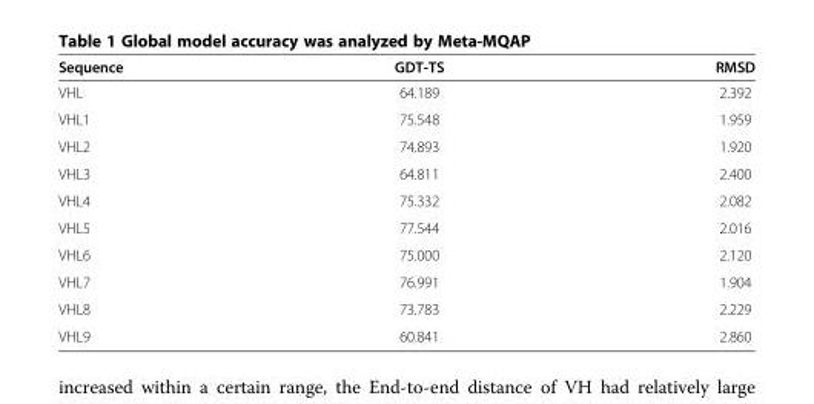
<table><thead><tr><td>Sequence</td><td>GDT-TS</td><td>RMSD</td></tr></thead><tbody><tr><td>VHL</td><td>64.189</td><td>2.392</td></tr><tr><td>VHL1</td><td>75.548</td><td>1.959</td></tr><tr><td>VHL2</td><td>74.893</td><td>1.920</td></tr><tr><td>VHL3</td><td>64.811</td><td>2.400</td></tr><tr><td>VHL4</td><td>75.332</td><td>2.082</td></tr><tr><td>VHL5</td><td>77.544</td><td>2.016</td></tr><tr><td>VHL6</td><td>75.000</td><td>2.120</td></tr><tr><td>VHL7</td><td>76.991</td><td>1.904</td></tr><tr><td>VHL8</td><td>73.783</td><td>2.229</td></tr><tr><td>VHL9</td><td>60.841</td><td>2.860</td></tr></tbody></table>